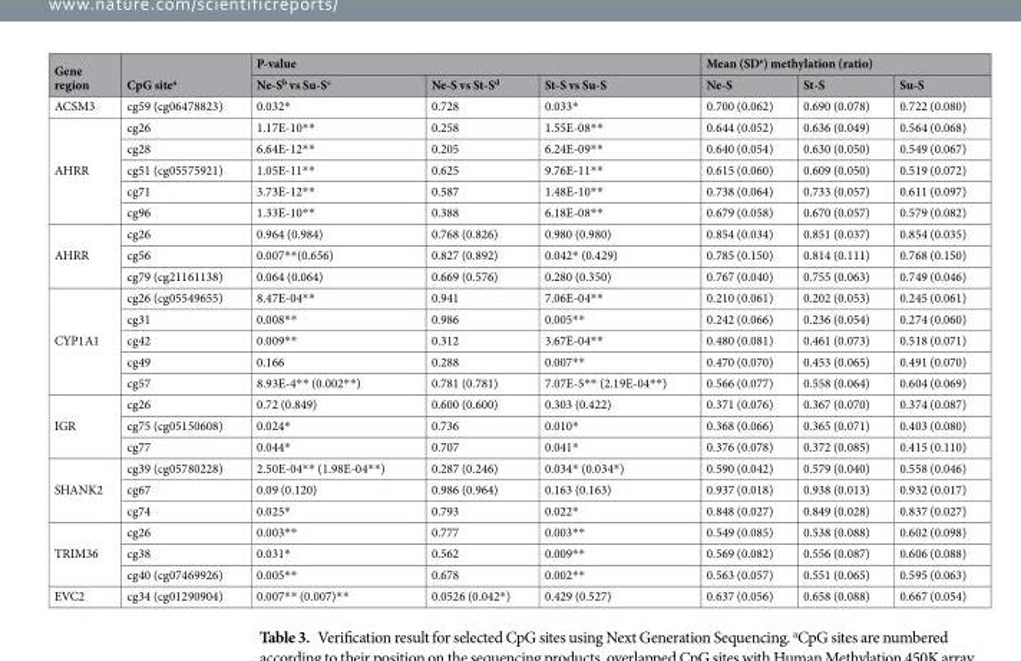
<table><thead><tr><td rowspan="2">Gene region</td><td rowspan="2">CpG site<sup>a</sup></td><td colspan="3">P-value</td><td colspan="3">Mean (SD<sup>e</sup>) methylation (ratio)</td></tr><tr><td>Ne-S<sup>b</sup> vs Su-S<sup>c</sup></td><td>Ne-S vs St-S<sup>d</sup></td><td>St-S vs Su-S</td><td>Ne-S</td><td>St-S</td><td>Su-S</td></tr></thead><tbody><tr><td>ACSM3</td><td>cg59 (cg06478823)</td><td>0.032*</td><td>0.728</td><td>0.033*</td><td>0.700 (0.062)</td><td>0.690 (0.078)</td><td>0.722 (0.080)</td></tr><tr><td rowspan="5">AHRR</td><td>cg26</td><td>1.17E-10**</td><td>0.258</td><td>1.55E-08**</td><td>0.644 (0.052)</td><td>0.636 (0.049)</td><td>0.564 (0.068)</td></tr><tr><td>cg28</td><td>6.64E-12**</td><td>0.205</td><td>6.24E-09**</td><td>0.640 (0.054)</td><td>0.630 (0.050)</td><td>0.549 (0.067)</td></tr><tr><td>cg51 (cg05575921)</td><td>1.05E-11**</td><td>0.625</td><td>9.76E-11**</td><td>0.615 (0.060)</td><td>0.609 (0.050)</td><td>0.519 (0.072)</td></tr><tr><td>cg71</td><td>3.73E-12**</td><td>0.587</td><td>1.48E-10**</td><td>0.738 (0.064)</td><td>0.733 (0.057)</td><td>0.611 (0.097)</td></tr><tr><td>cg96</td><td>1.33E-10**</td><td>0.388</td><td>6.18E-08**</td><td>0.679 (0.058)</td><td>0.670 (0.057)</td><td>0.579 (0.082)</td></tr><tr><td rowspan="3">AHRR</td><td>cg26</td><td>0.964 (0.984)</td><td>0.768 (0.826)</td><td>0.980 (0.980)</td><td>0.854 (0.034)</td><td>0.851 (0.037)</td><td>0.854 (0.035)</td></tr><tr><td>cg56</td><td>0.007**(0.656)</td><td>0.827 (0.892)</td><td>0.042* (0.429)</td><td>0.785 (0.150)</td><td>0.814 (0.111)</td><td>0.768 (0.150)</td></tr><tr><td>cg79 (cg21161138)</td><td>0.064 (0.064)</td><td>0.669 (0.576)</td><td>0.280 (0.350)</td><td>0.767 (0.040)</td><td>0.755 (0.063)</td><td>0.749 (0.046)</td></tr><tr><td rowspan="5">CYP1A1</td><td>cg26 (cg05549655)</td><td>8.47E-04**</td><td>0.941</td><td>7.06E-04**</td><td>0.210 (0.061)</td><td>0.202 (0.053)</td><td>0.245 (0.061)</td></tr><tr><td>cg31</td><td>0.008**</td><td>0.986</td><td>0.005**</td><td>0.242 (0.066)</td><td>0.236 (0.054)</td><td>0.274 (0.060)</td></tr><tr><td>cg42</td><td>0.009**</td><td>0.312</td><td>3.67E-04**</td><td>0.480 (0.081)</td><td>0.461 (0.073)</td><td>0.518 (0.071)</td></tr><tr><td>cg49</td><td>0.166</td><td>0.288</td><td>0.007**</td><td>0.470 (0.070)</td><td>0.453 (0.065)</td><td>0.491 (0.070)</td></tr><tr><td>cg57</td><td>8.93E-4** (0.002**)</td><td>0.781 (0.781)</td><td>7.07E-5** (2.19E-04**)</td><td>0.566 (0.077)</td><td>0.558 (0.064)</td><td>0.604 (0.069)</td></tr><tr><td rowspan="3">IGR</td><td>cg26</td><td>0.72 (0.849)</td><td>0.600 (0.600)</td><td>0.303 (0.422)</td><td>0.371 (0.076)</td><td>0.367 (0.070)</td><td>0.374 (0.087)</td></tr><tr><td>cg75 (cg05150608)</td><td>0.024*</td><td>0.736</td><td>0.010*</td><td>0.368 (0.066)</td><td>0.365 (0.071)</td><td>0.403 (0.080)</td></tr><tr><td>cg77</td><td>0.044*</td><td>0.707</td><td>0.041*</td><td>0.376 (0.078)</td><td>0.372 (0.085)</td><td>0.415 (0.110)</td></tr><tr><td rowspan="3">SHANK2</td><td>cg39 (cg05780228)</td><td>2.50E-04** (1.98E-04**)</td><td>0.287 (0.246)</td><td>0.034* (0.034*)</td><td>0.590 (0.042)</td><td>0.579 (0.040)</td><td>0.558 (0.046)</td></tr><tr><td>cg67</td><td>0.09 (0.120)</td><td>0.986 (0.964)</td><td>0.163 (0.163)</td><td>0.937 (0.018)</td><td>0.938 (0.013)</td><td>0.932 (0.017)</td></tr><tr><td>cg74</td><td>0.025*</td><td>0.793</td><td>0.022*</td><td>0.848 (0.027)</td><td>0.849 (0.028)</td><td>0.837 (0.027)</td></tr><tr><td rowspan="3">TRIM36</td><td>cg26</td><td>0.003**</td><td>0.777</td><td>0.003**</td><td>0.549 (0.085)</td><td>0.538 (0.088)</td><td>0.602 (0.098)</td></tr><tr><td>cg38</td><td>0.031*</td><td>0.562</td><td>0.009**</td><td>0.569 (0.082)</td><td>0.556 (0.087)</td><td>0.606 (0.088)</td></tr><tr><td>cg40 (cg07469926)</td><td>0.005**</td><td>0.678</td><td>0.002**</td><td>0.563 (0.057)</td><td>0.551 (0.065)</td><td>0.595 (0.063)</td></tr><tr><td>EVC2</td><td>cg34 (cg01290904)</td><td>0.007** (0.007)**</td><td>0.0526 (0.042*)</td><td>0.429 (0.527)</td><td>0.637 (0.056)</td><td>0.658 (0.088)</td><td>0.667 (0.054)</td></tr></tbody></table>